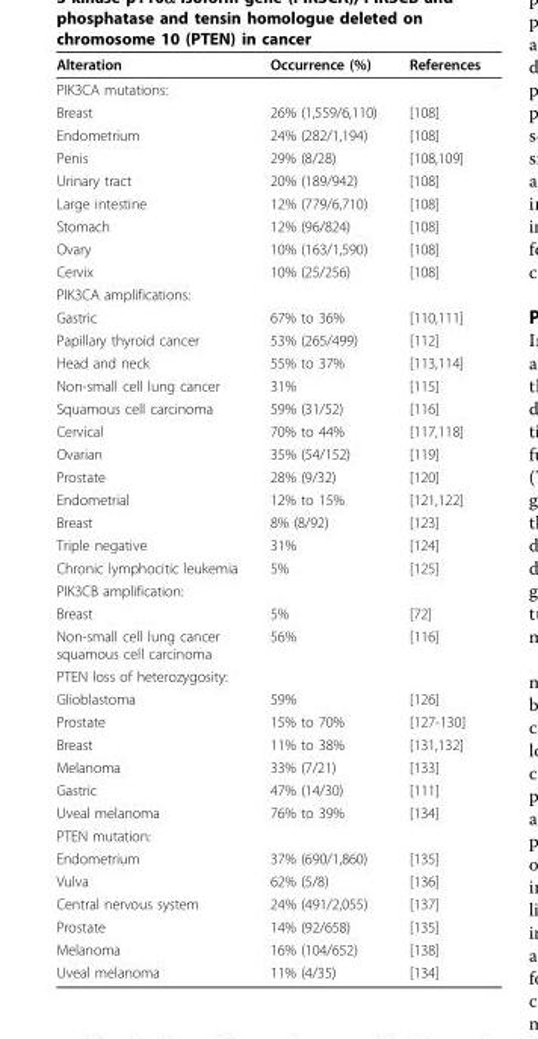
<table><thead><tr><td>Alteration</td><td>Occurrence (%)</td><td>References</td></tr></thead><tbody><tr><td colspan="3">PIK3CA mutations:</td></tr><tr><td>Breast</td><td>26% (1,559/6,110)</td><td>[108]</td></tr><tr><td>Endometrium</td><td>24% (282/1,194)</td><td>[108]</td></tr><tr><td>Penis</td><td>29% (8/28)</td><td>[108,109]</td></tr><tr><td>Urinary tract</td><td>20% (189/942)</td><td>[108]</td></tr><tr><td>Large intestine</td><td>12% (779/6,710)</td><td>[108]</td></tr><tr><td>Stomach</td><td>12% (96/824)</td><td>[108]</td></tr><tr><td>Ovary</td><td>10% (163/1,590)</td><td>[108]</td></tr><tr><td>Cervix</td><td>10% (25/256)</td><td>[108]</td></tr><tr><td colspan="3">PIK3CA amplifications:</td></tr><tr><td>Gastric</td><td>67% to 36%</td><td>[110,111]</td></tr><tr><td>Papillary thyroid cancer</td><td>53% (265/499)</td><td>[112]</td></tr><tr><td>Head and neck</td><td>55% to 37%</td><td>[113,114]</td></tr><tr><td>Non-small cell lung cancer</td><td>31%</td><td>[115]</td></tr><tr><td>Squamous cell carcinoma</td><td>59% (31/52)</td><td>[116]</td></tr><tr><td>Cervical</td><td>70% to 44%</td><td>[117,118]</td></tr><tr><td>Ovarian</td><td>35% (54/152)</td><td>[119]</td></tr><tr><td>Prostate</td><td>28% (9/32)</td><td>[120]</td></tr><tr><td>Endometrial</td><td>12% to 15%</td><td>[121,122]</td></tr><tr><td>Breast</td><td>8% (8/92)</td><td>[123]</td></tr><tr><td>Triple negative</td><td>31%</td><td>[124]</td></tr><tr><td>Chronic lymphocitic leukemia</td><td>5%</td><td>[125]</td></tr><tr><td colspan="3">PIK3CB amplification:</td></tr><tr><td>Breast</td><td>5%</td><td>[72]</td></tr><tr><td>Non-small cell lung cancer squamous cell carcinoma</td><td>56%</td><td>[116]</td></tr><tr><td colspan="3">PTEN loss of heterozygosity:</td></tr><tr><td>Glioblastoma</td><td>59%</td><td>[126]</td></tr><tr><td>Prostate</td><td>15% to 70%</td><td>[127-130]</td></tr><tr><td>Breast</td><td>11% to 38%</td><td>[131,132]</td></tr><tr><td>Melanoma</td><td>33% (7/21)</td><td>[133]</td></tr><tr><td>Gastric</td><td>47% (14/30)</td><td>[111]</td></tr><tr><td>Uveal melanoma</td><td>76% to 39%</td><td>[134]</td></tr><tr><td colspan="3">PTEN mutation:</td></tr><tr><td>Endometrium</td><td>37% (690/1,860)</td><td>[135]</td></tr><tr><td>Vulva</td><td>62% (5/8)</td><td>[136]</td></tr><tr><td>Central nervous system</td><td>24% (491/2,055)</td><td>[137]</td></tr><tr><td>Prostate</td><td>14% (92/658)</td><td>[135]</td></tr><tr><td>Melanoma</td><td>16% (104/652)</td><td>[138]</td></tr><tr><td>Uveal melanoma</td><td>11% (4/35)</td><td>[134]</td></tr></tbody></table>